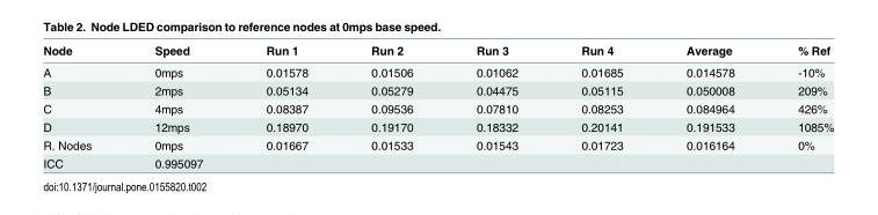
<table><thead><tr><td>Node</td><td>Speed</td><td>Run 1</td><td>Run 2</td><td>Run 3</td><td>Run 4</td><td>Average</td><td>% Ref</td></tr></thead><tbody><tr><td>A</td><td>0mps</td><td>0.01578</td><td>0.01506</td><td>0.01062</td><td>0.01685</td><td>0.014578</td><td>-10%</td></tr><tr><td>B</td><td>2mps</td><td>0.05134</td><td>0.05279</td><td>0.04475</td><td>0.05115</td><td>0.050008</td><td>209%</td></tr><tr><td>C</td><td>4mps</td><td>0.08387</td><td>0.09536</td><td>0.07810</td><td>0.08253</td><td>0.084964</td><td>426%</td></tr><tr><td>D</td><td>12mps</td><td>0.18970</td><td>0.19170</td><td>0.18332</td><td>0.20141</td><td>0.191533</td><td>1085%</td></tr><tr><td>R. Nodes</td><td>0mps</td><td>0.01667</td><td>0.01533</td><td>0.01543</td><td>0.01723</td><td>0.016164</td><td>0%</td></tr><tr><td>ICC</td><td>0.995097</td><td></td><td></td><td></td><td></td><td></td><td></td></tr></tbody></table>